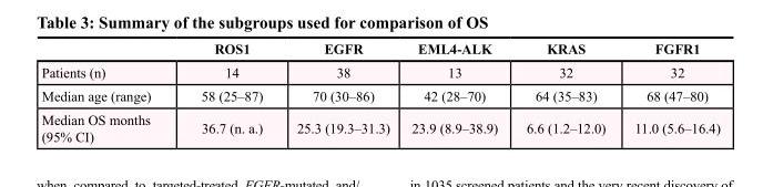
<table><thead><tr><td></td><td>ROS1</td><td>EGFR</td><td>EML4-ALK</td><td>KRAS</td><td>FGFR1</td></tr></thead><tbody><tr><td>Patients (n)</td><td>14</td><td>38</td><td>13</td><td>32</td><td>32</td></tr><tr><td>Median age (range)</td><td>58 (25–87)</td><td>70 (30–86)</td><td>42 (28–70)</td><td>64 (35–83)</td><td>68 (47–80)</td></tr><tr><td>Median OS months (95% CI)</td><td>36.7 (n. a.)</td><td>25.3 (19.3–31.3)</td><td>23.9 (8.9–38.9)</td><td>6.6 (1.2–12.0)</td><td>11.0 (5.6–16.4)</td></tr></tbody></table>